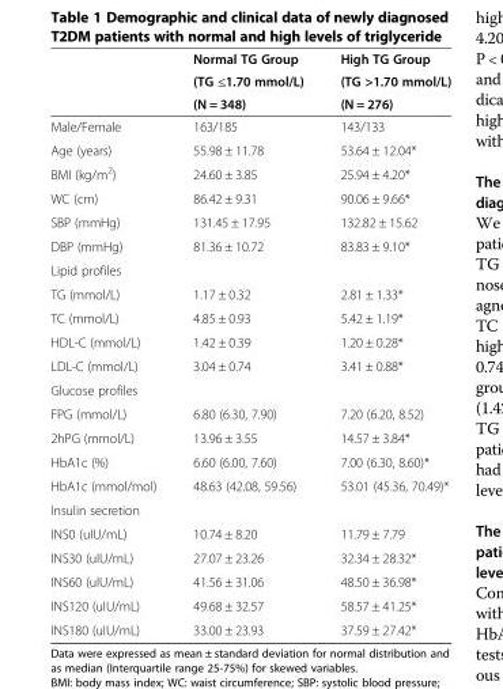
<table><thead><tr><td rowspan="3"></td><td rowspan="3">Normal TG Group (TG ≤1.70 mmol/L) (N = 348)</td><td rowspan="3">High TG Group (TG &gt;1.70 mmol/L) (N = 276)</td></tr><tr></tr><tr></tr></thead><tbody><tr><td>Male/Female</td><td>163/185</td><td>143/133</td></tr><tr><td>Age (years)</td><td>55.98 ± 11.78</td><td>53.64 ± 12.04*</td></tr><tr><td>BMI (kg/m<sup>2</sup>)</td><td>24.60 ± 3.85</td><td>25.94 ± 4.20*</td></tr><tr><td>WC (cm)</td><td>86.42 ± 9.31</td><td>90.06 ± 9.66*</td></tr><tr><td>SBP (mmHg)</td><td>131.45 ± 17.95</td><td>132.82 ± 15.62</td></tr><tr><td>DBP (mmHg)</td><td>81.36 ± 10.72</td><td>83.83 ± 9.10*</td></tr><tr><td colspan="3">Lipid profiles</td></tr><tr><td>TG (mmol/L)</td><td>1.17 ± 0.32</td><td>2.81 ± 1.33*</td></tr><tr><td>TC (mmol/L)</td><td>4.85 ± 0.93</td><td>5.42 ± 1.19*</td></tr><tr><td>HDL-C (mmol/L)</td><td>1.42 ± 0.39</td><td>1.20 ± 0.28*</td></tr><tr><td>LDL-C (mmol/L)</td><td>3.04 ± 0.74</td><td>3.41 ± 0.88*</td></tr><tr><td colspan="3">Glucose profiles</td></tr><tr><td>FPG (mmol/L)</td><td>6.80 (6.30, 7.90)</td><td>7.20 (6.20, 8.52)</td></tr><tr><td>2hPG (mmol/L)</td><td>13.96 ± 3.55</td><td>14.57 ± 3.84*</td></tr><tr><td>HbA1c (%)</td><td>6.60 (6.00, 7.60)</td><td>7.00 (6.30, 8.60)*</td></tr><tr><td>HbA1c (mmol/mol)</td><td>48.63 (42.08, 59.56)</td><td>53.01 (45.36, 70.49)*</td></tr><tr><td colspan="3">Insulin secretion</td></tr><tr><td>INS0 (uIU/mL)</td><td>10.74 ± 8.20</td><td>11.79 ± 7.79</td></tr><tr><td>INS30 (uIU/mL)</td><td>27.07 ± 23.26</td><td>32.34 ± 28.32*</td></tr><tr><td>INS60 (uIU/mL)</td><td>41.56 ± 31.06</td><td>48.50 ± 36.98*</td></tr><tr><td>INS120 (uIU/mL)</td><td>49.68 ± 32.57</td><td>58.57 ± 41.25*</td></tr><tr><td>INS180 (uIU/mL)</td><td>33.00 ± 23.93</td><td>37.59 ± 27.42*</td></tr></tbody></table>